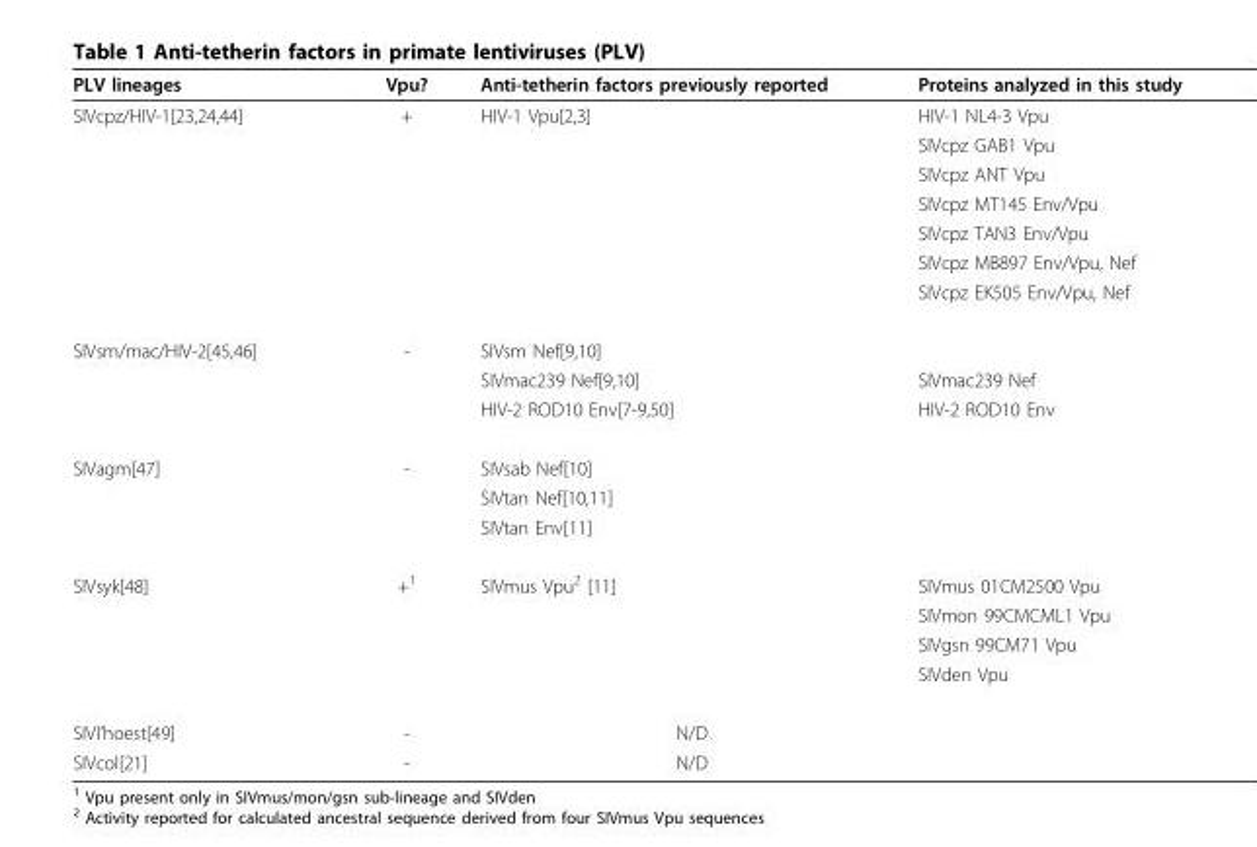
<table><thead><tr><td>PLV lineages</td><td>Vpu?</td><td>Anti-tetherin factors previously reported</td><td>Proteins analyzed in this study</td></tr></thead><tbody><tr><td rowspan="7">SIVcpz/HIV-1[23,24,44]</td><td>+</td><td>HIV-1 Vpu[2,3]</td><td>HIV-1 NL4-3 Vpu</td></tr><tr><td></td><td></td><td>SIVcpz GAB1 Vpu</td></tr><tr><td></td><td></td><td>SIVcpz ANT Vpu</td></tr><tr><td></td><td></td><td>SIVcpz MT145 Env/Vpu</td></tr><tr><td></td><td></td><td>SIVcpz TAN3 Env/Vpu</td></tr><tr><td></td><td></td><td>SIVcpz MB897 Env/Vpu, Nef</td></tr><tr><td></td><td></td><td>SIVcpz EK505 Env/Vpu, Nef</td></tr><tr><td rowspan="3">SIVsm/mac/HIV-2[45,46]</td><td>-</td><td>SIVsm Nef[9,10]</td><td></td></tr><tr><td></td><td>SIVmac239 Nef[9,10]</td><td>SIVmac239 Nef</td></tr><tr><td></td><td>HIV-2 ROD10 Env[7-9,50]</td><td>HIV-2 ROD10 Env</td></tr><tr><td rowspan="3">SIVagm[47]</td><td>-</td><td>SIVsab Nef[10]</td><td></td></tr><tr><td></td><td>SIVtan Nef[10,11]</td><td></td></tr><tr><td></td><td>SIVtan Env[11]</td><td></td></tr><tr><td rowspan="4">SIVsyk[48]</td><td>+<sup>1</sup></td><td>SIVmus Vpu<sup>2</sup> [11]</td><td>SIVmus 01CM2500 Vpu</td></tr><tr><td></td><td></td><td>SIVmon 99CMCML1 Vpu</td></tr><tr><td></td><td></td><td>SIVgsn 99CM71 Vpu</td></tr><tr><td></td><td></td><td>SIVden Vpu</td></tr><tr><td>SIVl’hoest[49]</td><td>-</td><td>N/D</td><td></td></tr><tr><td>SIVcol[21]</td><td>-</td><td>N/D</td><td></td></tr></tbody></table>